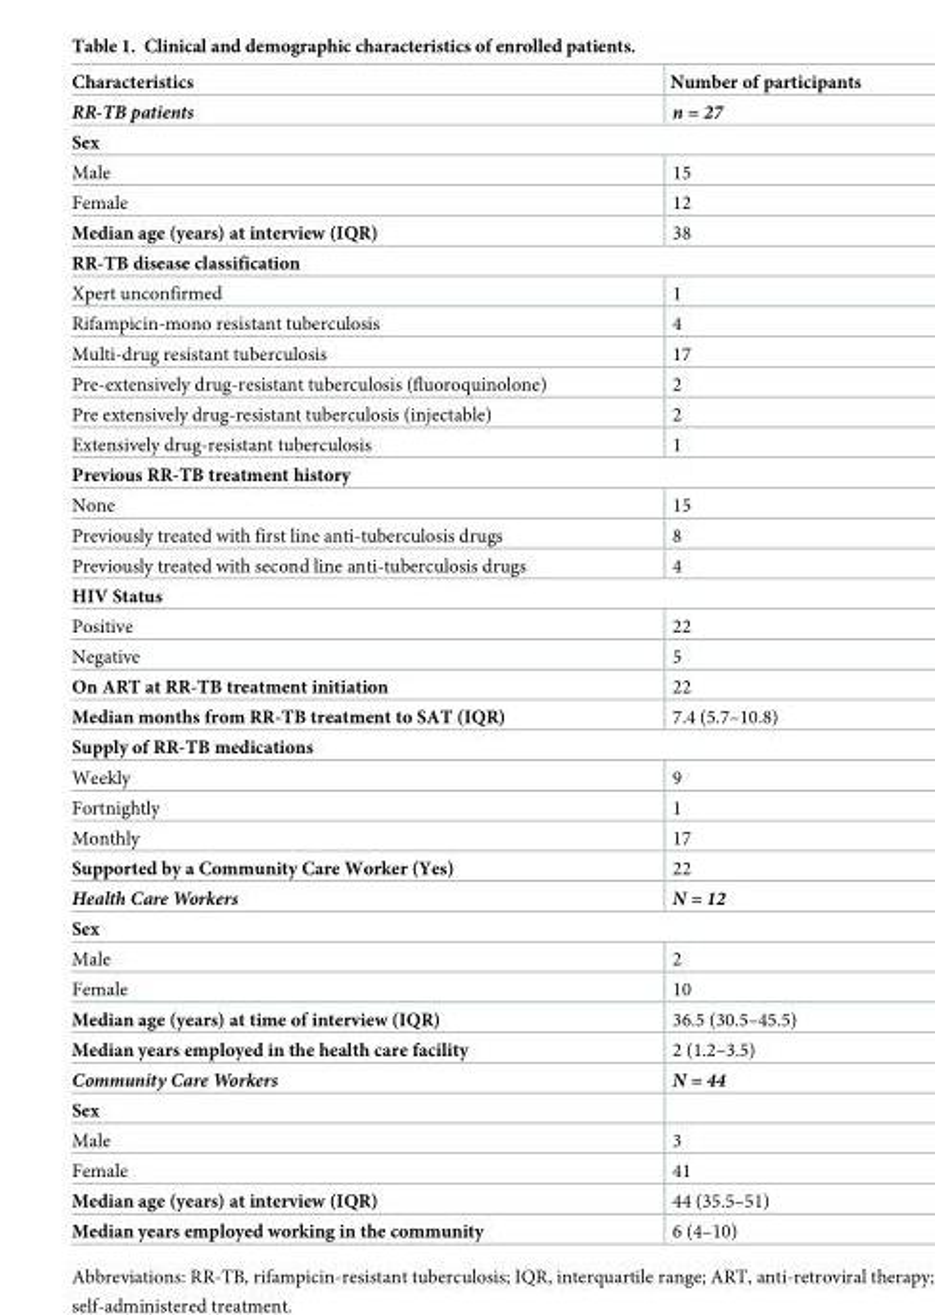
<table><thead><tr><td>Characteristics</td><td>Number of participants</td></tr></thead><tbody><tr><td>RR-TB patients</td><td>n = 27</td></tr><tr><td colspan="2">Sex</td></tr><tr><td>Male</td><td>15</td></tr><tr><td>Female</td><td>12</td></tr><tr><td>Median age (years) at interview (IQR)</td><td>38</td></tr><tr><td colspan="2">RR-TB disease classification</td></tr><tr><td>Xpert unconfirmed</td><td>1</td></tr><tr><td>Rifampicin-mono resistant tuberculosis</td><td>4</td></tr><tr><td>Multi-drug resistant tuberculosis</td><td>17</td></tr><tr><td>Pre-extensively drug-resistant tuberculosis (fluoroquinolone)</td><td>2</td></tr><tr><td>Pre extensively drug-resistant tuberculosis (injectable)</td><td>2</td></tr><tr><td>Extensively drug-resistant tuberculosis</td><td>1</td></tr><tr><td colspan="2">Previous RR-TB treatment history</td></tr><tr><td>None</td><td>15</td></tr><tr><td>Previously treated with first line anti-tuberculosis drugs</td><td>8</td></tr><tr><td>Previously treated with second line anti-tuberculosis drugs</td><td>4</td></tr><tr><td colspan="2">HIV Status</td></tr><tr><td>Positive</td><td>22</td></tr><tr><td>Negative</td><td>5</td></tr><tr><td>On ART at RR-TB treatment initiation</td><td>22</td></tr><tr><td>Median months from RR-TB treatment to SAT (IQR)</td><td>7.4 (5.7–10.8)</td></tr><tr><td colspan="2">Supply of RR-TB medications</td></tr><tr><td>Weekly</td><td>9</td></tr><tr><td>Fortnightly</td><td>1</td></tr><tr><td>Monthly</td><td>17</td></tr><tr><td>Supported by a Community Care Worker (Yes)</td><td>22</td></tr><tr><td>Health Care Workers</td><td>N = 12</td></tr><tr><td colspan="2">Sex</td></tr><tr><td>Male</td><td>2</td></tr><tr><td>Female</td><td>10</td></tr><tr><td>Median age (years) at time of interview (IQR)</td><td>36.5 (30.5–45.5)</td></tr><tr><td>Median years employed in the health care facility</td><td>2 (1.2–3.5)</td></tr><tr><td>Community Care Workers</td><td>N = 44</td></tr><tr><td colspan="2">Sex</td></tr><tr><td>Male</td><td>3</td></tr><tr><td>Female</td><td>41</td></tr><tr><td>Median age (years) at interview (IQR)</td><td>44 (35.5–51)</td></tr><tr><td>Median years employed working in the community</td><td>6 (4–10)</td></tr></tbody></table>